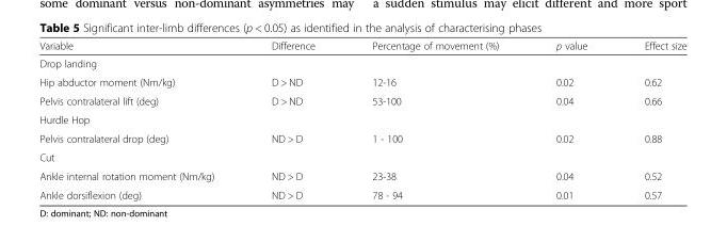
<table><thead><tr><td>Variable</td><td>Difference</td><td>Percentage of movement (%)</td><td>p value</td><td>Effect size</td></tr></thead><tbody><tr><td colspan="5">Drop landing</td></tr><tr><td>Hip abductor moment (Nm/kg)</td><td>D &gt; ND</td><td>12-16</td><td>0.02</td><td>0.62</td></tr><tr><td>Pelvis contralateral lift (deg)</td><td>D &gt; ND</td><td>53-100</td><td>0.04</td><td>0.66</td></tr><tr><td colspan="5">Hurdle Hop</td></tr><tr><td>Pelvis contralateral drop (deg)</td><td>ND &gt; D</td><td>1 - 100</td><td>0.02</td><td>0.88</td></tr><tr><td colspan="5">Cut</td></tr><tr><td>Ankle internal rotation moment (Nm/kg)</td><td>ND &gt; D</td><td>23-38</td><td>0.04</td><td>0.52</td></tr><tr><td>Ankle dorsiflexion (deg)</td><td>ND &gt; D</td><td>78 - 94</td><td>0.01</td><td>0.57</td></tr></tbody></table>